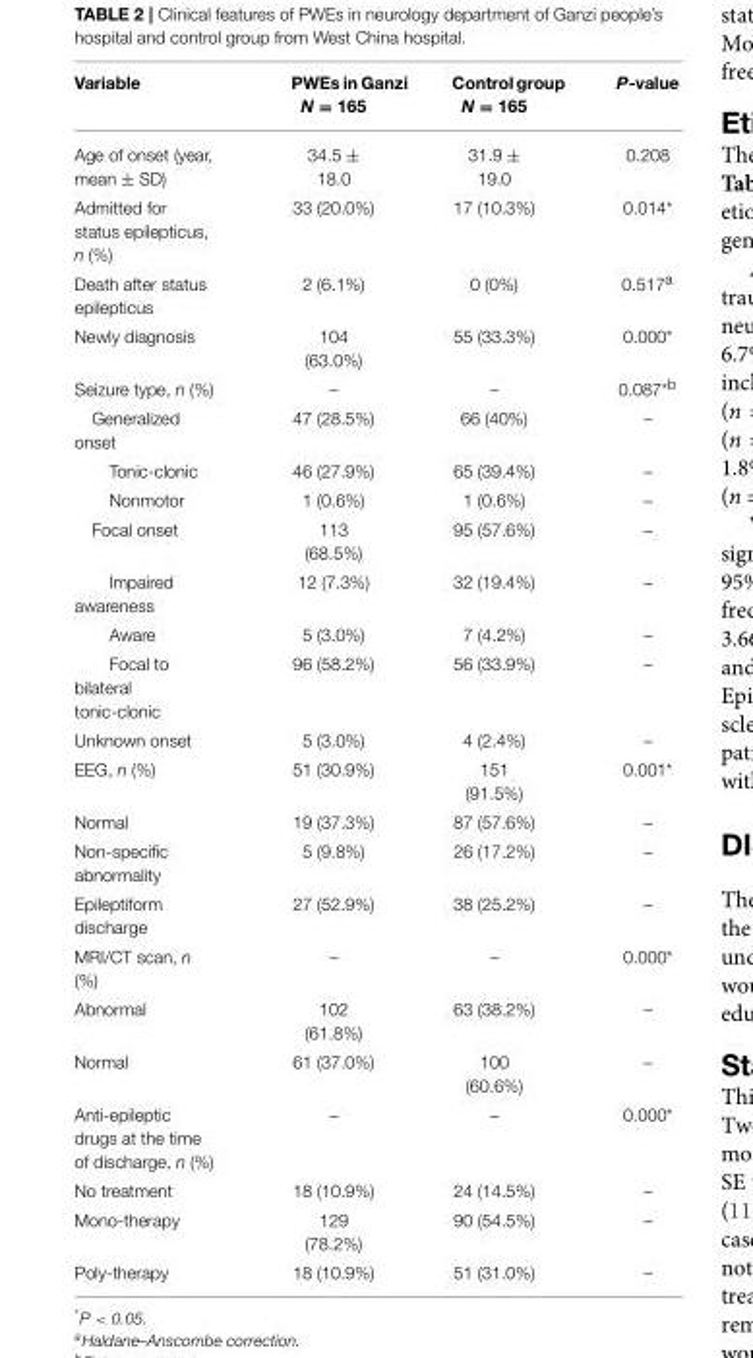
<table><thead><tr><td>Variable</td><td>PWEs in Ganzi N = 165</td><td>Control group N = 165</td><td>P-value</td></tr></thead><tbody><tr><td>Age of onset (year, mean ± SD)</td><td>34.5 ± 18.0</td><td>31.9 ± 19.0</td><td>0.208</td></tr><tr><td>Admitted for status epilepticus, n (%)</td><td>33 (20.0%)</td><td>17 (10.3%)</td><td>0.014*</td></tr><tr><td>Death after status epilepticus</td><td>2 (6.1%)</td><td>0 (0%)</td><td>0.517<sup>a</sup></td></tr><tr><td>Newly diagnosis</td><td>104 (63.0%)</td><td>55 (33.3%)</td><td>0.000*</td></tr><tr><td>Seizure type, n (%)</td><td>–</td><td>–</td><td>0.087<sup>*b</sup></td></tr><tr><td>Generalized onset</td><td>47 (28.5%)</td><td>66 (40%)</td><td>–</td></tr><tr><td>Tonic-clonic</td><td>46 (27.9%)</td><td>65 (39.4%)</td><td>–</td></tr><tr><td>Nonmotor</td><td>1 (0.6%)</td><td>1 (0.6%)</td><td>–</td></tr><tr><td>Focal onset</td><td>113 (68.5%)</td><td>95 (57.6%)</td><td>–</td></tr><tr><td>Impaired awareness</td><td>12 (7.3%)</td><td>32 (19.4%)</td><td>–</td></tr><tr><td>Aware</td><td>5 (3.0%)</td><td>7 (4.2%)</td><td>–</td></tr><tr><td>Focal to bilateral tonic-clonic</td><td>96 (58.2%)</td><td>56 (33.9%)</td><td>–</td></tr><tr><td>Unknown onset</td><td>5 (3.0%)</td><td>4 (2.4%)</td><td>–</td></tr><tr><td>EEG, n (%)</td><td>51 (30.9%)</td><td>151 (91.5%)</td><td>0.001*</td></tr><tr><td>Normal</td><td>19 (37.3%)</td><td>87 (57.6%)</td><td>–</td></tr><tr><td>Non-specific abnormality</td><td>5 (9.8%)</td><td>26 (17.2%)</td><td>–</td></tr><tr><td>Epileptiform discharge</td><td>27 (52.9%)</td><td>38 (25.2%)</td><td>–</td></tr><tr><td>MRI/CT scan, n (%)</td><td>–</td><td>–</td><td>0.000*</td></tr><tr><td>Abnormal</td><td>102 (61.8%)</td><td>63 (38.2%)</td><td>–</td></tr><tr><td>Normal</td><td>61 (37.0%)</td><td>100 (60.6%)</td><td>–</td></tr><tr><td>Anti-epileptic drugs at the time of discharge, n (%)</td><td>–</td><td>–</td><td>0.000*</td></tr><tr><td>No treatment</td><td>18 (10.9%)</td><td>24 (14.5%)</td><td>–</td></tr><tr><td>Mono-therapy</td><td>129 (78.2%)</td><td>90 (54.5%)</td><td>–</td></tr><tr><td>Poly-therapy</td><td>18 (10.9%)</td><td>51 (31.0%)</td><td>–</td></tr></tbody></table>